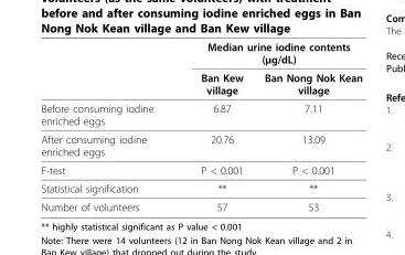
<table><thead><tr><td rowspan="2"></td><td colspan="2">Median urine iodine contents (μg/dL)</td></tr><tr><td>Ban Kew village</td><td>Ban Nong Nok Kean village</td></tr></thead><tbody><tr><td>Before consuming iodine enriched eggs</td><td>6.87</td><td>7.11</td></tr><tr><td>After consuming iodine enriched eggs</td><td>20.76</td><td>13.09</td></tr><tr><td>F-test</td><td>P &lt; 0.001</td><td>P &lt; 0.001</td></tr><tr><td>Statistical signification</td><td>**</td><td>**</td></tr><tr><td>Number of volunteers</td><td>57</td><td>53</td></tr></tbody></table>